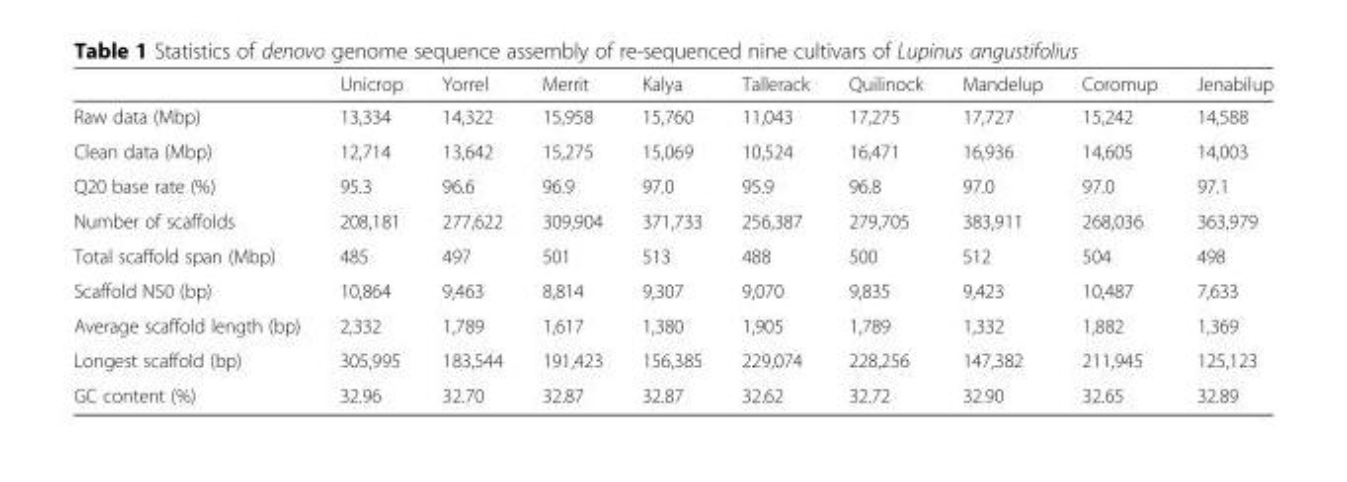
<table><thead><tr><td></td><td>Unicrop</td><td>Yorrel</td><td>Merrit</td><td>Kalya</td><td>Tallerack</td><td>Quilinock</td><td>Mandelup</td><td>Coromup</td><td>Jenabilup</td></tr></thead><tbody><tr><td>Raw data (Mbp)</td><td>13,334</td><td>14,322</td><td>15,958</td><td>15,760</td><td>11,043</td><td>17,275</td><td>17,727</td><td>15,242</td><td>14,588</td></tr><tr><td>Clean data (Mbp)</td><td>12,714</td><td>13,642</td><td>15,275</td><td>15,069</td><td>10,524</td><td>16,471</td><td>16,936</td><td>14,605</td><td>14,003</td></tr><tr><td>Q20 base rate (%)</td><td>95.3</td><td>96.6</td><td>96.9</td><td>97.0</td><td>95.9</td><td>96.8</td><td>97.0</td><td>97.0</td><td>97.1</td></tr><tr><td>Number of scaffolds</td><td>208,181</td><td>277,622</td><td>309,904</td><td>371,733</td><td>256,387</td><td>279,705</td><td>383,911</td><td>268,036</td><td>363,979</td></tr><tr><td>Total scaffold span (Mbp)</td><td>485</td><td>497</td><td>501</td><td>513</td><td>488</td><td>500</td><td>512</td><td>504</td><td>498</td></tr><tr><td>Scaffold N50 (bp)</td><td>10,864</td><td>9,463</td><td>8,814</td><td>9,307</td><td>9,070</td><td>9,835</td><td>9,423</td><td>10,487</td><td>7,633</td></tr><tr><td>Average scaffold length (bp)</td><td>2,332</td><td>1,789</td><td>1,617</td><td>1,380</td><td>1,905</td><td>1,789</td><td>1,332</td><td>1,882</td><td>1,369</td></tr><tr><td>Longest scaffold (bp)</td><td>305,995</td><td>183,544</td><td>191,423</td><td>156,385</td><td>229,074</td><td>228,256</td><td>147,382</td><td>211,945</td><td>125,123</td></tr><tr><td>GC content (%)</td><td>32.96</td><td>32.70</td><td>32.87</td><td>32.87</td><td>32.62</td><td>32.72</td><td>32.90</td><td>32.65</td><td>32.89</td></tr></tbody></table>